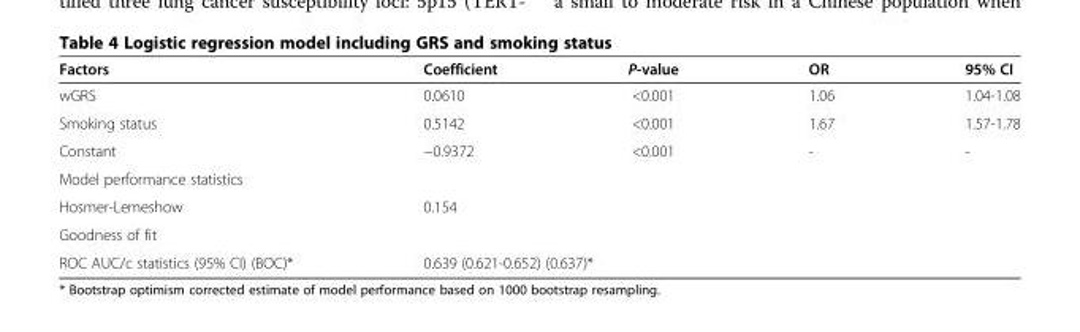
<table><thead><tr><td>Factors</td><td>Coefficient</td><td>P-value</td><td>OR</td><td>95% CI</td></tr></thead><tbody><tr><td>wGRS</td><td>0.0610</td><td>&lt;0.001</td><td>1.06</td><td>1.04-1.08</td></tr><tr><td>Smoking status</td><td>0.5142</td><td>&lt;0.001</td><td>1.67</td><td>1.57-1.78</td></tr><tr><td>Constant</td><td>−0.9372</td><td>&lt;0.001</td><td>-</td><td>-</td></tr><tr><td colspan="5">Model performance statistics</td></tr><tr><td>Hosmer-Lemeshow</td><td>0.154</td><td></td><td></td><td></td></tr><tr><td colspan="5">Goodness of fit</td></tr><tr><td>ROC AUC/c statistics (95% CI) (BOC)*</td><td colspan="4">0.639 (0.621-0.652) (0.637)*</td></tr></tbody></table>